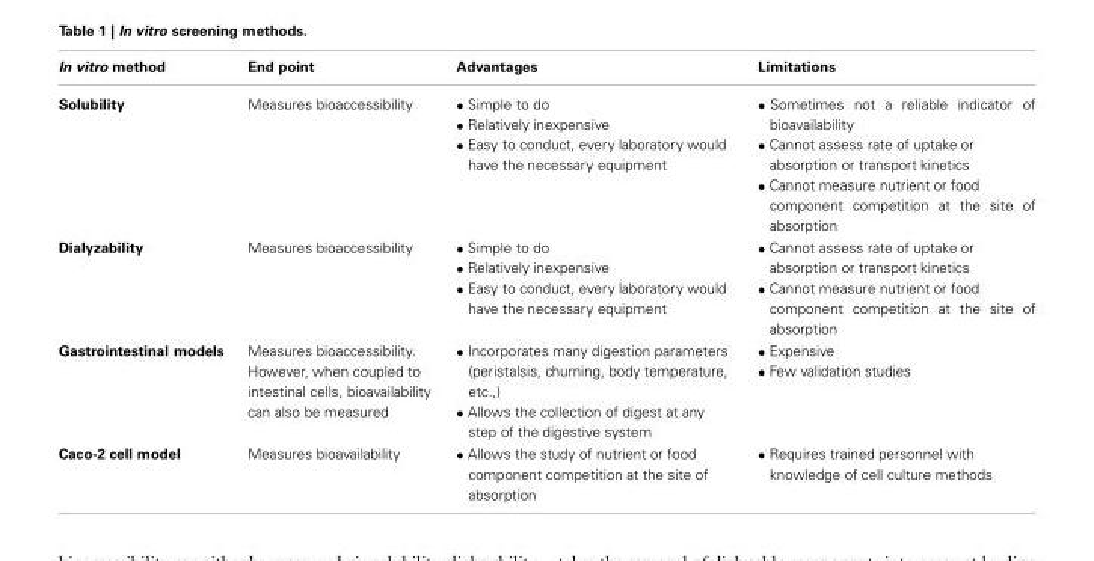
<table><thead><tr><td>In vitro method</td><td>End point</td><td>Advantages</td><td>Limitations</td></tr></thead><tbody><tr><td>Solubility</td><td>Measures bioaccessibility</td><td>• Simple to do • Relatively inexpensive • Easy to conduct, every laboratory would have the necessary equipment</td><td>• Sometimes not a reliable indicator of bioavailability • Cannot assess rate of uptake or absorption or transport kinetics • Cannot measure nutrient or food component competition at the site of absorption</td></tr><tr><td>Dialyzability</td><td>Measures bioaccessibility</td><td>• Simple to do • Relatively inexpensive • Easy to conduct, every laboratory would have the necessary equipment</td><td>• Cannot assess rate of uptake or absorption or transport kinetics • Cannot measure nutrient or food component competition at the site of absorption</td></tr><tr><td>Gastrointestinal models</td><td>Measures bioaccessibility. However, when coupled to intestinal cells, bioavailability can also be measured</td><td>• Incorporates many digestion parameters (peristalsis, churning, body temperature, etc.,) • Allows the collection of digest at any step of the digestive system</td><td>• Expensive • Few validation studies</td></tr><tr><td>Caco-2 cell model</td><td>Measures bioavailability</td><td>• Allows the study of nutrient or food component competition at the site of absorption</td><td>• Requires trained personnel with knowledge of cell culture methods</td></tr></tbody></table>